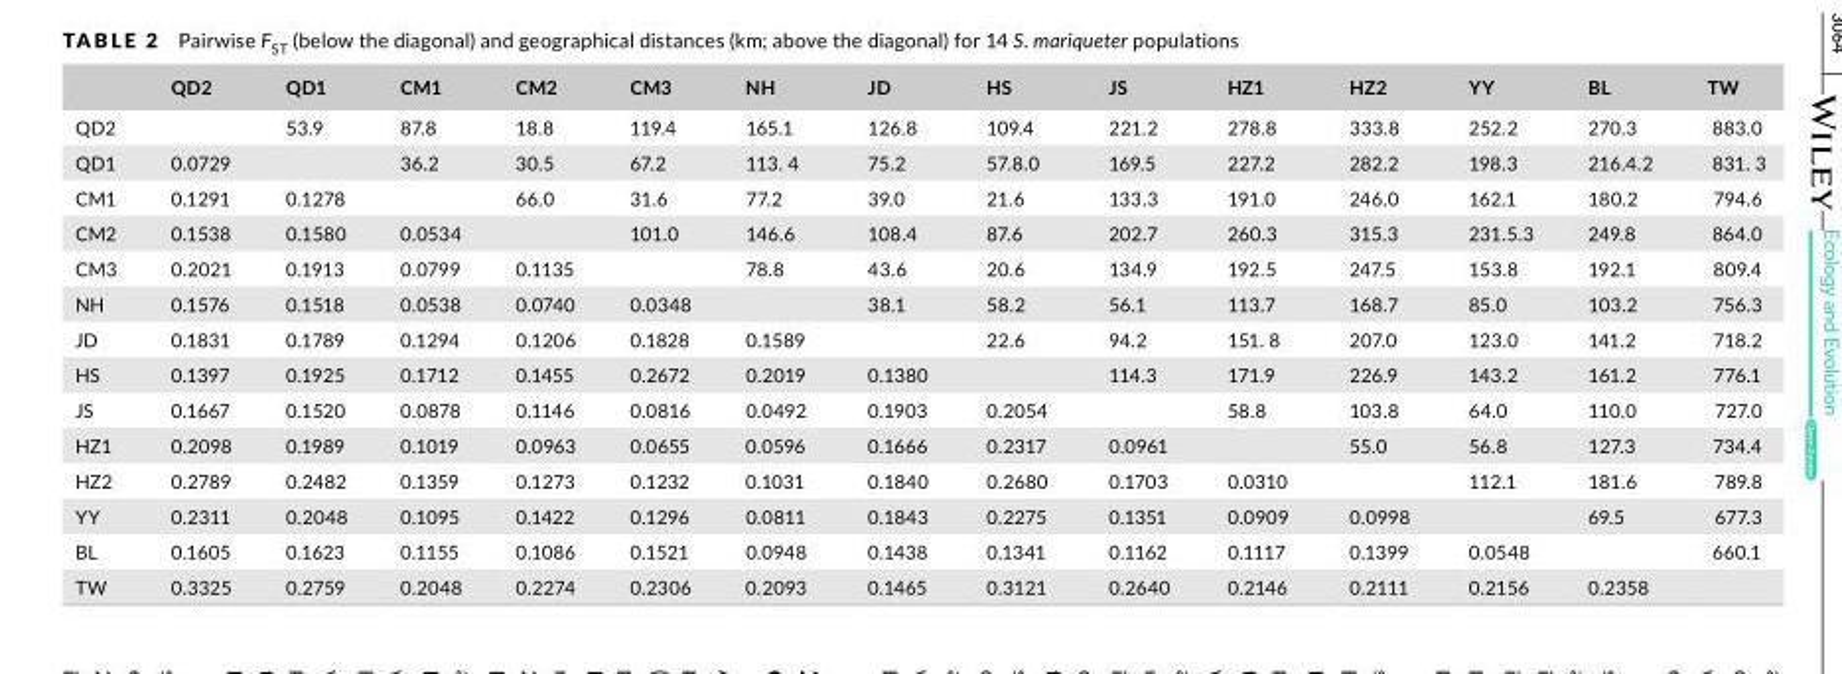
<table><thead><tr><td></td><td>QD2</td><td>QD1</td><td>CM1</td><td>CM2</td><td>CM3</td><td>NH</td><td>JD</td><td>HS</td><td>JS</td><td>HZ1</td><td>HZ2</td><td>YY</td><td>BL</td><td>TW</td></tr></thead><tbody><tr><td>QD2</td><td></td><td>53.9</td><td>87.8</td><td>18.8</td><td>119.4</td><td>165.1</td><td>126.8</td><td>109.4</td><td>221.2</td><td>278.8</td><td>333.8</td><td>252.2</td><td>270.3</td><td>883.0</td></tr><tr><td>QD1</td><td>0.0729</td><td></td><td>36.2</td><td>30.5</td><td>67.2</td><td>113. 4</td><td>75.2</td><td>57.8.0</td><td>169.5</td><td>227.2</td><td>282.2</td><td>198.3</td><td>216.4.2</td><td>831. 3</td></tr><tr><td>CM1</td><td>0.1291</td><td>0.1278</td><td></td><td>66.0</td><td>31.6</td><td>77.2</td><td>39.0</td><td>21.6</td><td>133.3</td><td>191.0</td><td>246.0</td><td>162.1</td><td>180.2</td><td>794.6</td></tr><tr><td>CM2</td><td>0.1538</td><td>0.1580</td><td>0.0534</td><td></td><td>101.0</td><td>146.6</td><td>108.4</td><td>87.6</td><td>202.7</td><td>260.3</td><td>315.3</td><td>231.5.3</td><td>249.8</td><td>864.0</td></tr><tr><td>CM3</td><td>0.2021</td><td>0.1913</td><td>0.0799</td><td>0.1135</td><td></td><td>78.8</td><td>43.6</td><td>20.6</td><td>134.9</td><td>192.5</td><td>247.5</td><td>153.8</td><td>192.1</td><td>809.4</td></tr><tr><td>NH</td><td>0.1576</td><td>0.1518</td><td>0.0538</td><td>0.0740</td><td>0.0348</td><td></td><td>38.1</td><td>58.2</td><td>56.1</td><td>113.7</td><td>168.7</td><td>85.0</td><td>103.2</td><td>756.3</td></tr><tr><td>JD</td><td>0.1831</td><td>0.1789</td><td>0.1294</td><td>0.1206</td><td>0.1828</td><td>0.1589</td><td></td><td>22.6</td><td>94.2</td><td>151. 8</td><td>207.0</td><td>123.0</td><td>141.2</td><td>718.2</td></tr><tr><td>HS</td><td>0.1397</td><td>0.1925</td><td>0.1712</td><td>0.1455</td><td>0.2672</td><td>0.2019</td><td>0.1380</td><td></td><td>114.3</td><td>171.9</td><td>226.9</td><td>143.2</td><td>161.2</td><td>776.1</td></tr><tr><td>JS</td><td>0.1667</td><td>0.1520</td><td>0.0878</td><td>0.1146</td><td>0.0816</td><td>0.0492</td><td>0.1903</td><td>0.2054</td><td></td><td>58.8</td><td>103.8</td><td>64.0</td><td>110.0</td><td>727.0</td></tr><tr><td>HZ1</td><td>0.2098</td><td>0.1989</td><td>0.1019</td><td>0.0963</td><td>0.0655</td><td>0.0596</td><td>0.1666</td><td>0.2317</td><td>0.0961</td><td></td><td>55.0</td><td>56.8</td><td>127.3</td><td>734.4</td></tr><tr><td>HZ2</td><td>0.2789</td><td>0.2482</td><td>0.1359</td><td>0.1273</td><td>0.1232</td><td>0.1031</td><td>0.1840</td><td>0.2680</td><td>0.1703</td><td>0.0310</td><td></td><td>112.1</td><td>181.6</td><td>789.8</td></tr><tr><td>YY</td><td>0.2311</td><td>0.2048</td><td>0.1095</td><td>0.1422</td><td>0.1296</td><td>0.0811</td><td>0.1843</td><td>0.2275</td><td>0.1351</td><td>0.0909</td><td>0.0998</td><td></td><td>69.5</td><td>677.3</td></tr><tr><td>BL</td><td>0.1605</td><td>0.1623</td><td>0.1155</td><td>0.1086</td><td>0.1521</td><td>0.0948</td><td>0.1438</td><td>0.1341</td><td>0.1162</td><td>0.1117</td><td>0.1399</td><td>0.0548</td><td></td><td>660.1</td></tr><tr><td>TW</td><td>0.3325</td><td>0.2759</td><td>0.2048</td><td>0.2274</td><td>0.2306</td><td>0.2093</td><td>0.1465</td><td>0.3121</td><td>0.2640</td><td>0.2146</td><td>0.2111</td><td>0.2156</td><td>0.2358</td><td></td></tr></tbody></table>